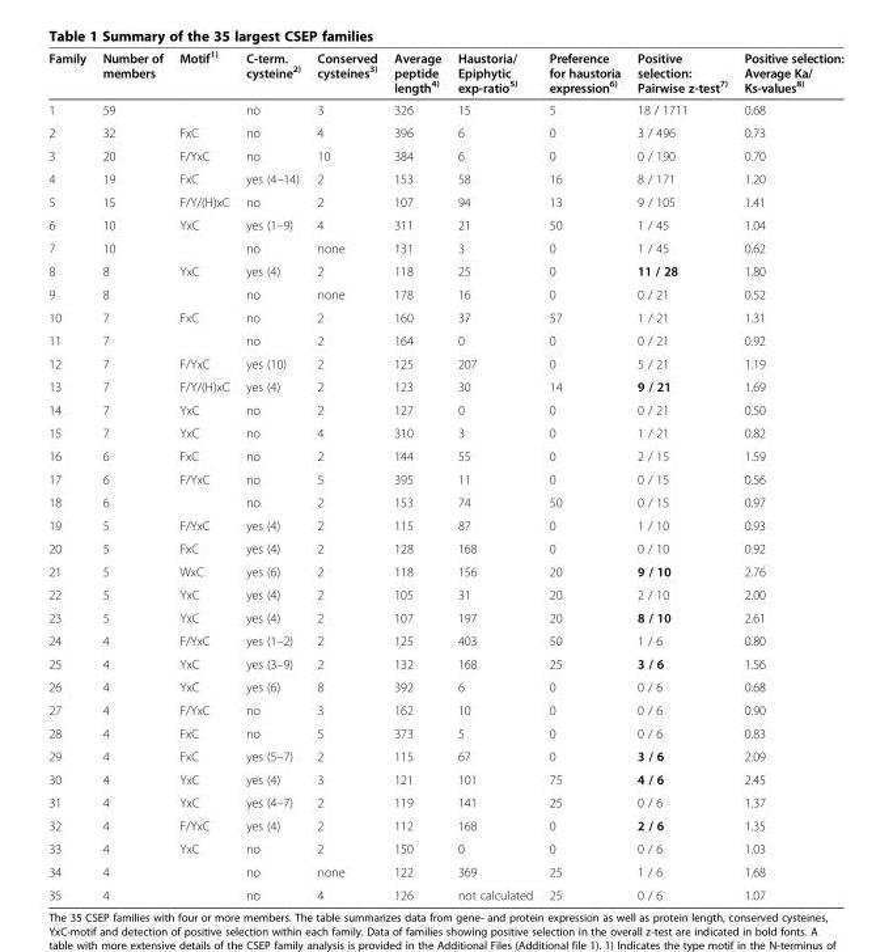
<table><thead><tr><td>Family</td><td>Number of members</td><td>Motif<sup>1)</sup></td><td>C-term. cysteine<sup>2)</sup></td><td>Conserved cysteines<sup>3)</sup></td><td>Average peptide length<sup>4)</sup></td><td>Haustoria/ Epiphytic exp-ratio<sup>5)</sup></td><td>Preference for haustoria expression<sup>6)</sup></td><td>Positive selection: Pairwise z-test<sup>7)</sup></td><td>Positive selection: Average Ka/ Ks-values<sup>8)</sup></td></tr></thead><tbody><tr><td>1</td><td>59</td><td></td><td>no</td><td>3</td><td>326</td><td>15</td><td>5</td><td>18 / 1711</td><td>0.68</td></tr><tr><td>2</td><td>32</td><td>FxC</td><td>no</td><td>4</td><td>396</td><td>6</td><td>0</td><td>3 / 496</td><td>0.73</td></tr><tr><td>3</td><td>20</td><td>F/YxC</td><td>no</td><td>10</td><td>384</td><td>6</td><td>0</td><td>0 / 190</td><td>0.70</td></tr><tr><td>4</td><td>19</td><td>FxC</td><td>yes (4–14)</td><td>2</td><td>153</td><td>58</td><td>16</td><td>8 / 171</td><td>1.20</td></tr><tr><td>5</td><td>15</td><td>F/Y/(H)xC</td><td>no</td><td>2</td><td>107</td><td>94</td><td>13</td><td>9 / 105</td><td>1.41</td></tr><tr><td>6</td><td>10</td><td>YxC</td><td>yes (1–9)</td><td>4</td><td>311</td><td>21</td><td>50</td><td>1 / 45</td><td>1.04</td></tr><tr><td>7</td><td>10</td><td></td><td>no</td><td>none</td><td>131</td><td>3</td><td>0</td><td>1 / 45</td><td>0.62</td></tr><tr><td>8</td><td>8</td><td>YxC</td><td>yes (4)</td><td>2</td><td>118</td><td>25</td><td>0</td><td>11 / 28</td><td>1.80</td></tr><tr><td>9</td><td>8</td><td></td><td>no</td><td>none</td><td>178</td><td>16</td><td>0</td><td>0 / 21</td><td>0.52</td></tr><tr><td>10</td><td>7</td><td>FxC</td><td>no</td><td>2</td><td>160</td><td>37</td><td>57</td><td>1 / 21</td><td>1.31</td></tr><tr><td>11</td><td>7</td><td></td><td>no</td><td>2</td><td>164</td><td>0</td><td>0</td><td>0 / 21</td><td>0.92</td></tr><tr><td>12</td><td>7</td><td>F/YxC</td><td>yes (10)</td><td>2</td><td>125</td><td>207</td><td>0</td><td>5 / 21</td><td>1.19</td></tr><tr><td>13</td><td>7</td><td>F/Y/(H)xC</td><td>yes (4)</td><td>2</td><td>123</td><td>30</td><td>14</td><td>9 / 21</td><td>1.69</td></tr><tr><td>14</td><td>7</td><td>YxC</td><td>no</td><td>2</td><td>127</td><td>0</td><td>0</td><td>0 / 21</td><td>0.50</td></tr><tr><td>15</td><td>7</td><td>YxC</td><td>no</td><td>4</td><td>310</td><td>3</td><td>0</td><td>1 / 21</td><td>0.82</td></tr><tr><td>16</td><td>6</td><td>FxC</td><td>no</td><td>2</td><td>144</td><td>55</td><td>0</td><td>2 / 15</td><td>1.59</td></tr><tr><td>17</td><td>6</td><td>F/YxC</td><td>no</td><td>5</td><td>395</td><td>11</td><td>0</td><td>0 / 15</td><td>0.56</td></tr><tr><td>18</td><td>6</td><td></td><td>no</td><td>2</td><td>153</td><td>74</td><td>50</td><td>0 / 15</td><td>0.97</td></tr><tr><td>19</td><td>5</td><td>F/YxC</td><td>yes (4)</td><td>2</td><td>115</td><td>87</td><td>0</td><td>1 / 10</td><td>0.93</td></tr><tr><td>20</td><td>5</td><td>FxC</td><td>yes (4)</td><td>2</td><td>128</td><td>168</td><td>0</td><td>0 / 10</td><td>0.92</td></tr><tr><td>21</td><td>5</td><td>WxC</td><td>yes (6)</td><td>2</td><td>118</td><td>156</td><td>20</td><td>9 / 10</td><td>2.76</td></tr><tr><td>22</td><td>5</td><td>YxC</td><td>yes (4)</td><td>2</td><td>105</td><td>31</td><td>20</td><td>2 / 10</td><td>2.00</td></tr><tr><td>23</td><td>5</td><td>YxC</td><td>yes (4)</td><td>2</td><td>107</td><td>197</td><td>20</td><td>8 / 10</td><td>2.61</td></tr><tr><td>24</td><td>4</td><td>F/YxC</td><td>yes (1–2)</td><td>2</td><td>125</td><td>403</td><td>50</td><td>1 / 6</td><td>0.80</td></tr><tr><td>25</td><td>4</td><td>YxC</td><td>yes (3–9)</td><td>2</td><td>132</td><td>168</td><td>25</td><td>3 / 6</td><td>1.56</td></tr><tr><td>26</td><td>4</td><td>YxC</td><td>yes (6)</td><td>8</td><td>392</td><td>6</td><td>0</td><td>0 / 6</td><td>0.68</td></tr><tr><td>27</td><td>4</td><td>F/YxC</td><td>no</td><td>3</td><td>162</td><td>10</td><td>0</td><td>0 / 6</td><td>0.90</td></tr><tr><td>28</td><td>4</td><td>FxC</td><td>no</td><td>5</td><td>373</td><td>5</td><td>0</td><td>0 / 6</td><td>0.83</td></tr><tr><td>29</td><td>4</td><td>FxC</td><td>yes (5–7)</td><td>2</td><td>115</td><td>67</td><td>0</td><td>3 / 6</td><td>2.09</td></tr><tr><td>30</td><td>4</td><td>YxC</td><td>yes (4)</td><td>3</td><td>121</td><td>101</td><td>75</td><td>4 / 6</td><td>2.45</td></tr><tr><td>31</td><td>4</td><td>YxC</td><td>yes (4–7)</td><td>2</td><td>119</td><td>141</td><td>25</td><td>0 / 6</td><td>1.37</td></tr><tr><td>32</td><td>4</td><td>F/YxC</td><td>yes (4)</td><td>2</td><td>112</td><td>168</td><td>0</td><td>2 / 6</td><td>1.35</td></tr><tr><td>33</td><td>4</td><td>YxC</td><td>no</td><td>2</td><td>150</td><td>0</td><td>0</td><td>0 / 6</td><td>1.03</td></tr><tr><td>34</td><td>4</td><td></td><td>no</td><td>none</td><td>122</td><td>369</td><td>25</td><td>1 / 6</td><td>1.68</td></tr><tr><td>35</td><td>4</td><td></td><td>no</td><td>4</td><td>126</td><td>not calculated</td><td>25</td><td>0 / 6</td><td>1.07</td></tr></tbody></table>